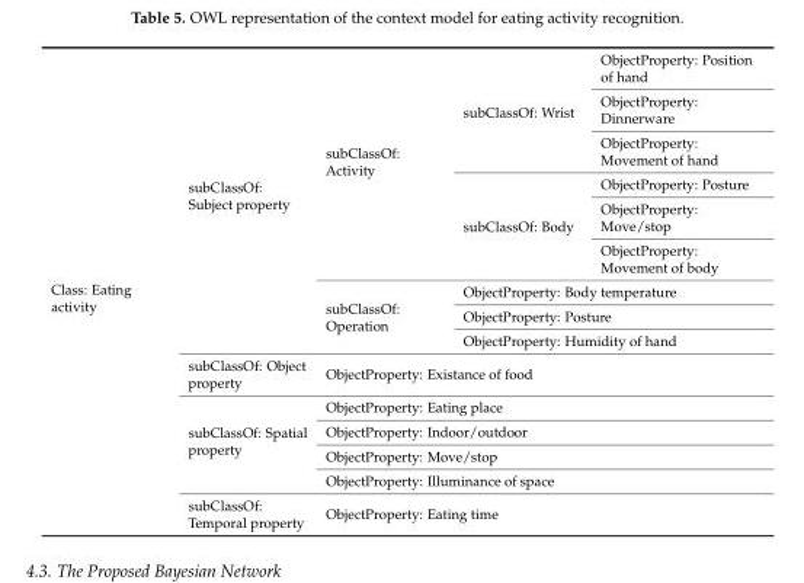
<table><tbody><tr><td rowspan="15">Class: Eating activity</td><td rowspan="9">subClassOf: Subject property</td><td rowspan="6">subClassOf: Activity</td><td rowspan="3">subClassOf: Wrist</td><td>ObjectProperty: Position of hand</td></tr><tr><td>ObjectProperty: Dinnerware</td></tr><tr><td>ObjectProperty: Movement of hand</td></tr><tr><td rowspan="3">subClassOf: Body</td><td>ObjectProperty: Posture</td></tr><tr><td>ObjectProperty: Move/stop</td></tr><tr><td>ObjectProperty: Movement of body</td></tr><tr><td rowspan="3">subClassOf: Operation</td><td colspan="2">ObjectProperty: Body temperature</td></tr><tr><td colspan="2">ObjectProperty: Posture</td></tr><tr><td colspan="2">ObjectProperty: Humidity of hand</td></tr><tr><td>subClassOf: Object property</td><td colspan="3">ObjectProperty: Existance of food</td></tr><tr><td rowspan="4">subClassOf: Spatial property</td><td colspan="3">ObjectProperty: Eating place</td></tr><tr><td colspan="3">ObjectProperty: Indoor/outdoor</td></tr><tr><td colspan="3">ObjectProperty: Move/stop</td></tr><tr><td colspan="3">ObjectProperty: Illuminance of space</td></tr><tr><td>subClassOf: Temporal property</td><td colspan="3">ObjectProperty: Eating time</td></tr></tbody></table>